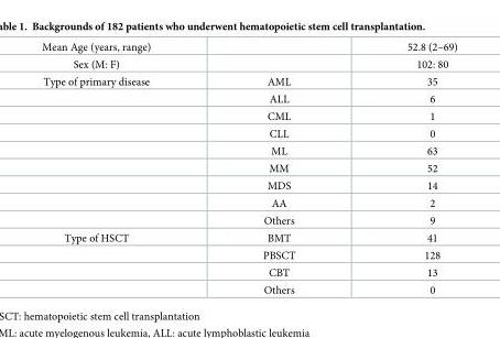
<table><tbody><tr><td>Mean Age (years, range)</td><td></td><td>52.8 (2–69)</td></tr><tr><td>Sex (M: F)</td><td></td><td>102: 80</td></tr><tr><td rowspan="9">Type of primary disease</td><td>AML</td><td>35</td></tr><tr><td>ALL</td><td>6</td></tr><tr><td>CML</td><td>1</td></tr><tr><td>CLL</td><td>0</td></tr><tr><td>ML</td><td>63</td></tr><tr><td>MM</td><td>52</td></tr><tr><td>MDS</td><td>14</td></tr><tr><td>AA</td><td>2</td></tr><tr><td>Others</td><td>9</td></tr><tr><td rowspan="4">Type of HSCT</td><td>BMT</td><td>41</td></tr><tr><td>PBSCT</td><td>128</td></tr><tr><td>CBT</td><td>13</td></tr><tr><td>Others</td><td>0</td></tr></tbody></table>